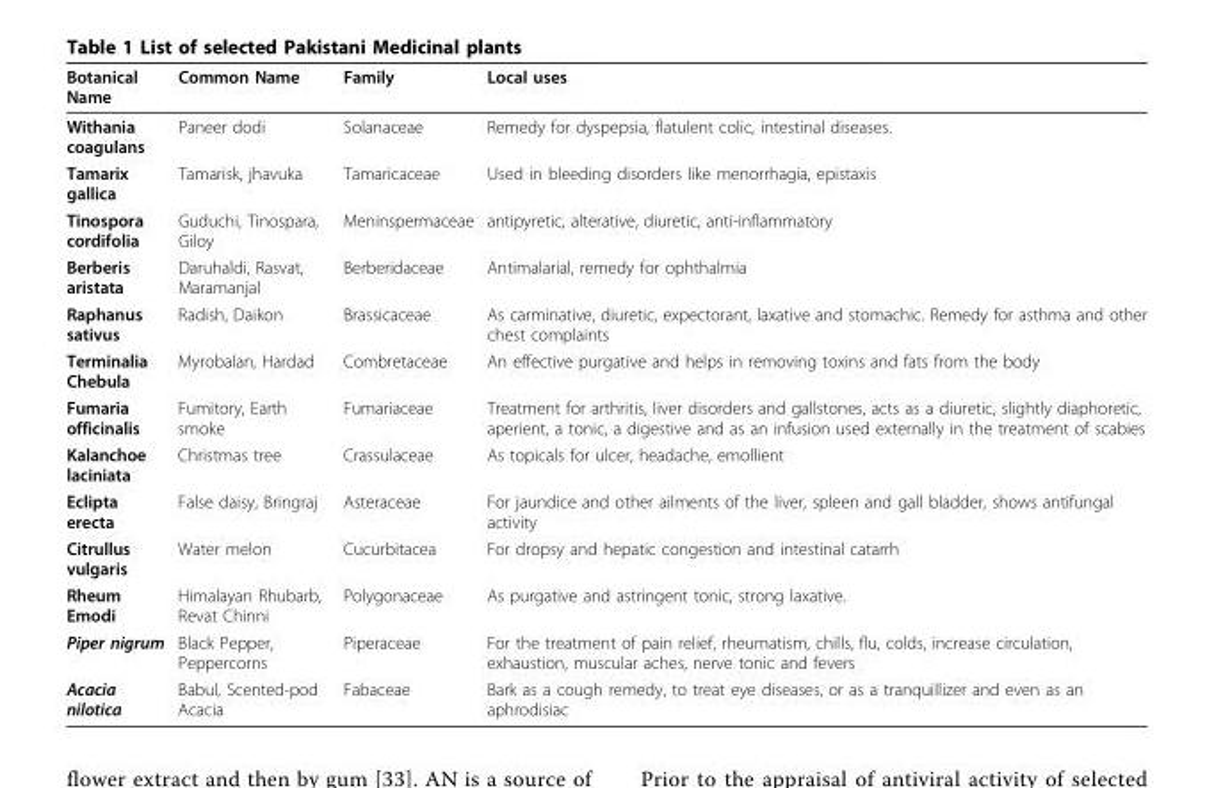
<table><thead><tr><td>Botanical Name</td><td>Common Name</td><td>Family</td><td>Local uses</td></tr></thead><tbody><tr><td>Withania coagulans</td><td>Paneer dodi</td><td>Solanaceae</td><td>Remedy for dyspepsia, flatulent colic, intestinal diseases.</td></tr><tr><td>Tamarix gallica</td><td>Tamarisk, jhavuka</td><td>Tamaricaceae</td><td>Used in bleeding disorders like menorrhagia, epistaxis</td></tr><tr><td>Tinospora cordifolia</td><td>Guduchi, Tinospara, Giloy</td><td>Meninspermaceae</td><td>antipyretic, alterative, diuretic, anti-inflammatory</td></tr><tr><td>Berberis aristata</td><td>Daruhaldi, Rasvat, Maramanjal</td><td>Berberidaceae</td><td>Antimalarial, remedy for ophthalmia</td></tr><tr><td>Raphanus sativus</td><td>Radish, Daikon</td><td>Brassicaceae</td><td>As carminative, diuretic, expectorant, laxative and stomachic. Remedy for asthma and other chest complaints</td></tr><tr><td>Terminalia Chebula</td><td>Myrobalan, Hardad</td><td>Combretaceae</td><td>An effective purgative and helps in removing toxins and fats from the body</td></tr><tr><td>Fumaria officinalis</td><td>Fumitory, Earth smoke</td><td>Fumariaceae</td><td>Treatment for arthritis, liver disorders and gallstones, acts as a diuretic, slightly diaphoretic, aperient, a tonic, a digestive and as an infusion used externally in the treatment of scabies</td></tr><tr><td>Kalanchoe laciniata</td><td>Christmas tree</td><td>Crassulaceae</td><td>As topicals for ulcer, headache, emollient</td></tr><tr><td>Eclipta erecta</td><td>False daisy, Bringraj</td><td>Asteraceae</td><td>For jaundice and other ailments of the liver, spleen and gall bladder, shows antifungal activity</td></tr><tr><td>Citrullus vulgaris</td><td>Water melon</td><td>Cucurbitacea</td><td>For dropsy and hepatic congestion and intestinal catarrh</td></tr><tr><td>Rheum Emodi</td><td>Himalayan Rhubarb, Revat Chinni</td><td>Polygonaceae</td><td>As purgative and astringent tonic, strong laxative.</td></tr><tr><td>Piper nigrum</td><td>Black Pepper, Peppercorns</td><td>Piperaceae</td><td>For the treatment of pain relief, rheumatism, chills, flu, colds, increase circulation, exhaustion, muscular aches, nerve tonic and fevers</td></tr><tr><td>Acacia nilotica</td><td>Babul, Scented-pod Acacia</td><td>Fabaceae</td><td>Bark as a cough remedy, to treat eye diseases, or as a tranquillizer and even as an aphrodisiac</td></tr></tbody></table>